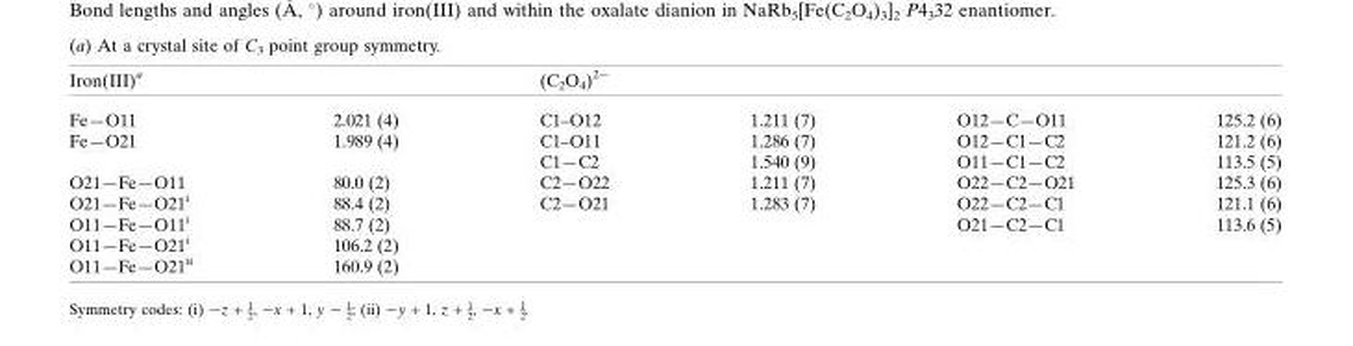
<table><thead><tr><td>Iron(III)a</td><td></td><td>(C<sub>2</sub>O<sub>4</sub>)<sup>2−</sup></td><td></td><td></td><td></td></tr></thead><tbody><tr><td>Fe—O11</td><td>2.021 (4)</td><td>C1–O12</td><td>1.211 (7)</td><td>O12—C—O11</td><td>125.2 (6)</td></tr><tr><td rowspan="2">Fe—O21</td><td>1.989 (4)</td><td>C1–O11</td><td>1.286 (7)</td><td>O12—C1—C2</td><td>121.2 (6)</td></tr><tr><td></td><td>C1—C2</td><td>1.540 (9)</td><td>O11—C1—C2</td><td>113.5 (5)</td></tr><tr><td>O21—Fe—O11</td><td>80.0 (2)</td><td>C2—O22</td><td>1.211 (7)</td><td>O22—C2—O21</td><td>125.3 (6)</td></tr><tr><td>O21—Fe—O21<sup>i</sup></td><td>88.4 (2)</td><td>C2—O21</td><td>1.283 (7)</td><td>O22—C2—C1</td><td>121.1 (6)</td></tr><tr><td>O11—Fe—O11<sup>i</sup></td><td>88.7 (2)</td><td></td><td></td><td>O21—C2—C1</td><td>113.6 (5)</td></tr><tr><td>O11—Fe—O21<sup>i</sup></td><td>106.2 (2)</td><td></td><td></td><td></td><td></td></tr><tr><td>O11—Fe—O21<sup>ii</sup></td><td>160.9 (2)</td><td></td><td></td><td></td><td></td></tr></tbody></table>